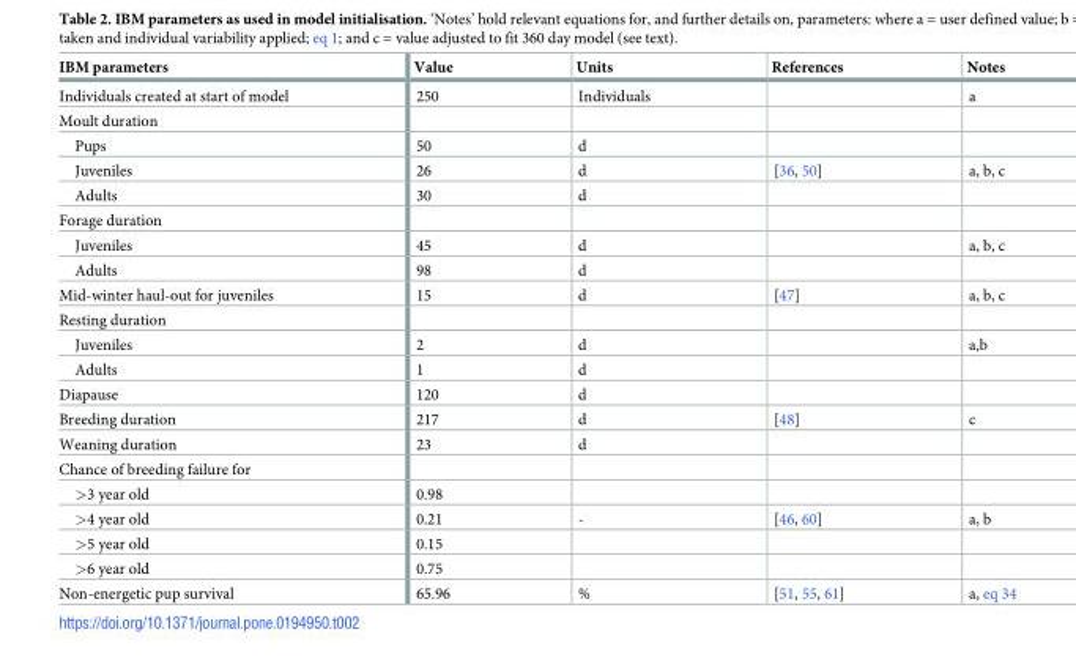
<table><thead><tr><td>IBM parameters</td><td>Value</td><td>Units</td><td>References</td><td>Notes</td></tr></thead><tbody><tr><td>Individuals created at start of model</td><td>250</td><td>Individuals</td><td></td><td>a</td></tr><tr><td colspan="5">Moult duration</td></tr><tr><td>Pups</td><td>50</td><td>d</td><td></td><td></td></tr><tr><td>Juveniles</td><td>26</td><td>d</td><td>[36, 50]</td><td>a, b, c</td></tr><tr><td>Adults</td><td>30</td><td>d</td><td></td><td></td></tr><tr><td colspan="5">Forage duration</td></tr><tr><td>Juveniles</td><td>45</td><td>d</td><td></td><td>a, b, c</td></tr><tr><td>Adults</td><td>98</td><td>d</td><td></td><td></td></tr><tr><td>Mid-winter haul-out for juveniles</td><td>15</td><td>d</td><td>[47]</td><td>a, b, c</td></tr><tr><td colspan="5">Resting duration</td></tr><tr><td>Juveniles</td><td>2</td><td>d</td><td></td><td>a,b</td></tr><tr><td>Adults</td><td>1</td><td>d</td><td></td><td></td></tr><tr><td>Diapause</td><td>120</td><td>d</td><td></td><td></td></tr><tr><td>Breeding duration</td><td>217</td><td>d</td><td>[48]</td><td>c</td></tr><tr><td>Weaning duration</td><td>23</td><td>d</td><td></td><td></td></tr><tr><td colspan="5">Chance of breeding failure for</td></tr><tr><td>&gt;3 year old</td><td>0.98</td><td></td><td></td><td></td></tr><tr><td>&gt;4 year old</td><td>0.21</td><td>-</td><td>[46, 60]</td><td>a, b</td></tr><tr><td>&gt;5 year old</td><td>0.15</td><td></td><td></td><td></td></tr><tr><td>&gt;6 year old</td><td>0.75</td><td></td><td></td><td></td></tr><tr><td>Non-energetic pup survival</td><td>65.96</td><td>%</td><td>[51, 55, 61]</td><td>a, eq 34</td></tr></tbody></table>